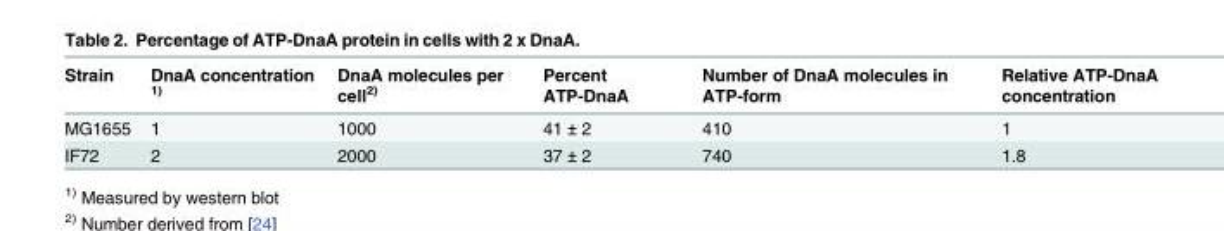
<table><thead><tr><td>Strain</td><td>DnaA concentration <sup>1)</sup></td><td>DnaA molecules per cell<sup>2)</sup></td><td>Percent ATP-DnaA</td><td>Number of DnaA molecules in ATP-form</td><td>Relative ATP-DnaA concentration</td></tr></thead><tbody><tr><td>MG1655</td><td>1</td><td>1000</td><td>41 ± 2</td><td>410</td><td>1</td></tr><tr><td>IF72</td><td>2</td><td>2000</td><td>37 ± 2</td><td>740</td><td>1.8</td></tr></tbody></table>